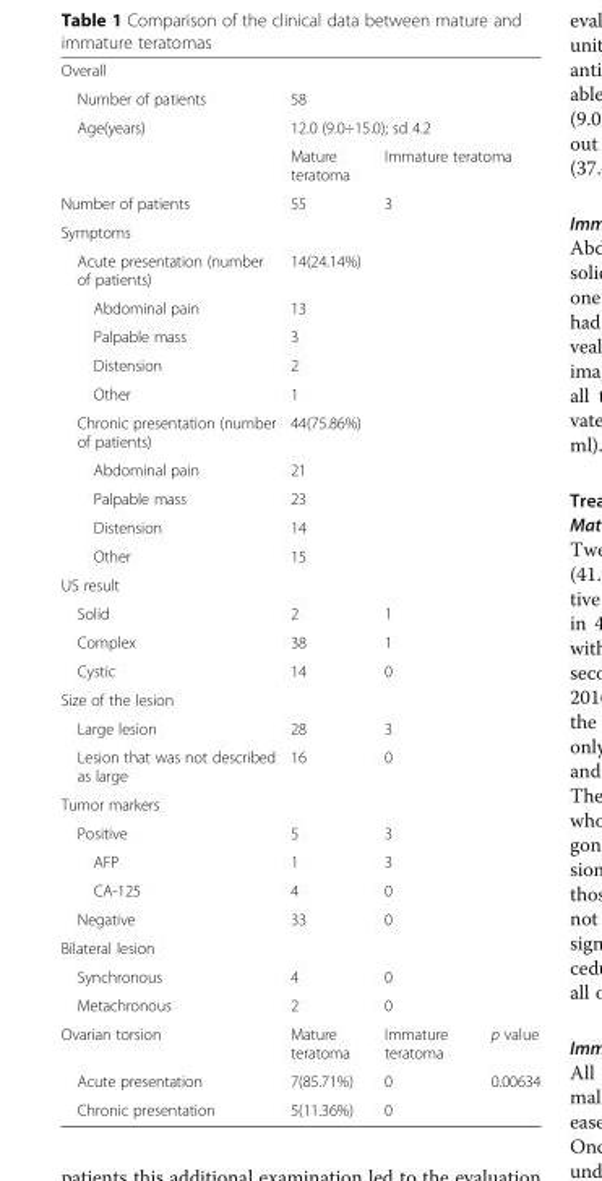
<table><tbody><tr><td colspan="4">Overall</td></tr><tr><td>Number of patients</td><td colspan="3">58</td></tr><tr><td rowspan="2">Age(years)</td><td colspan="3">12.0 (9.0÷15.0); sd 4.2</td></tr><tr><td>Mature teratoma</td><td colspan="2">Immature teratoma</td></tr><tr><td>Number of patients</td><td>55</td><td colspan="2">3</td></tr><tr><td colspan="4">Symptoms</td></tr><tr><td>Acute presentation (number of patients)</td><td colspan="3">14(24.14%)</td></tr><tr><td>Abdominal pain</td><td colspan="3">13</td></tr><tr><td>Palpable mass</td><td colspan="3">3</td></tr><tr><td>Distension</td><td colspan="3">2</td></tr><tr><td>Other</td><td colspan="3">1</td></tr><tr><td>Chronic presentation (number of patients)</td><td colspan="3">44(75.86%)</td></tr><tr><td>Abdominal pain</td><td colspan="3">21</td></tr><tr><td>Palpable mass</td><td colspan="3">23</td></tr><tr><td>Distension</td><td colspan="3">14</td></tr><tr><td>Other</td><td colspan="3">15</td></tr><tr><td colspan="4">US result</td></tr><tr><td>Solid</td><td>2</td><td colspan="2">1</td></tr><tr><td>Complex</td><td>38</td><td colspan="2">1</td></tr><tr><td>Cystic</td><td>14</td><td colspan="2">0</td></tr><tr><td colspan="4">Size of the lesion</td></tr><tr><td>Large lesion</td><td>28</td><td colspan="2">3</td></tr><tr><td>Lesion that was not described as large</td><td>16</td><td colspan="2">0</td></tr><tr><td colspan="4">Tumor markers</td></tr><tr><td>Positive</td><td>5</td><td colspan="2">3</td></tr><tr><td>AFP</td><td>1</td><td colspan="2">3</td></tr><tr><td>CA-125</td><td>4</td><td colspan="2">0</td></tr><tr><td>Negative</td><td>33</td><td colspan="2">0</td></tr><tr><td colspan="4">Bilateral lesion</td></tr><tr><td>Synchronous</td><td>4</td><td colspan="2">0</td></tr><tr><td>Metachronous</td><td>2</td><td colspan="2">0</td></tr><tr><td>Ovarian torsion</td><td>Mature teratoma</td><td>Immature teratoma</td><td>p value</td></tr><tr><td>Acute presentation</td><td>7(85.71%)</td><td>0</td><td rowspan="2">0.00634</td></tr><tr><td>Chronic presentation</td><td>5(11.36%)</td><td>0</td></tr></tbody></table>